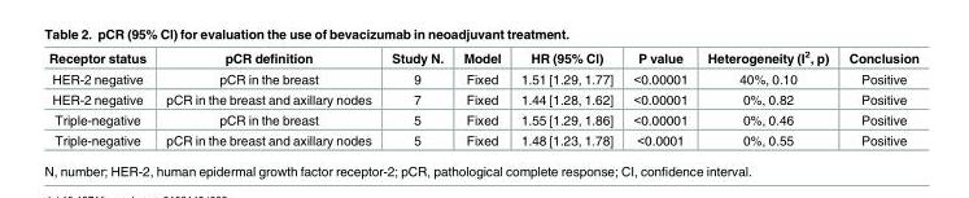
<table><thead><tr><td>Receptor status</td><td>pCR definition</td><td>Study N.</td><td>Model</td><td>HR (95% Cl)</td><td>P value</td><td>Heterogeneity (I<sup>2</sup>, p)</td><td>Conclusion</td></tr></thead><tbody><tr><td>HER-2 negative</td><td>pCR in the breast</td><td>9</td><td>Fixed</td><td>1.51 [1.29, 1.77]</td><td>&lt;0.00001</td><td>40%, 0.10</td><td>Positive</td></tr><tr><td>HER-2 negative</td><td>pCR in the breast and axillary nodes</td><td>7</td><td>Fixed</td><td>1.44 [1.28, 1.62]</td><td>&lt;0.00001</td><td>0%, 0.82</td><td>Positive</td></tr><tr><td>Triple-negative</td><td>pCR in the breast</td><td>5</td><td>Fixed</td><td>1.55 [1.29, 1.86]</td><td>&lt;0.00001</td><td>0%, 0.46</td><td>Positive</td></tr><tr><td>Triple-negative</td><td>pCR in the breast and axillary nodes</td><td>5</td><td>Fixed</td><td>1.48 [1.23, 1.78]</td><td>&lt;0.0001</td><td>0%, 0.55</td><td>Positive</td></tr></tbody></table>